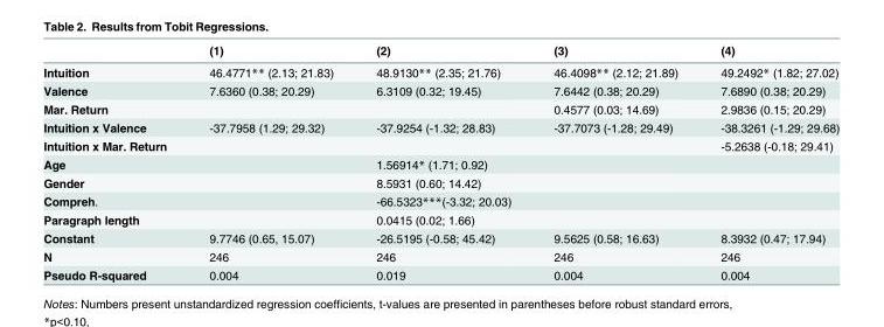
<table><thead><tr><td></td><td>(1)</td><td>(2)</td><td>(3)</td><td>(4)</td></tr></thead><tbody><tr><td>Intuition</td><td>46.4771** (2.13; 21.83)</td><td>48.9130** (2.35; 21.76)</td><td>46.4098** (2.12; 21.89)</td><td>49.2492* (1.82; 27.02)</td></tr><tr><td>Valence</td><td>7.6360 (0.38; 20.29)</td><td>6.3109 (0.32; 19.45)</td><td>7.6442 (0.38; 20.29)</td><td>7.6890 (0.38; 20.29)</td></tr><tr><td>Mar. Return</td><td></td><td></td><td>0.4577 (0.03; 14.69)</td><td>2.9836 (0.15; 20.29)</td></tr><tr><td>Intuition x Valence</td><td>-37.7958 (1.29; 29.32)</td><td>-37.9254 (-1.32; 28.83)</td><td>-37.7073 (-1.28; 29.49)</td><td>-38.3261 (-1.29; 29.68)</td></tr><tr><td>Intuition x Mar. Return</td><td></td><td></td><td></td><td>-5.2638 (-0.18; 29.41)</td></tr><tr><td>Age</td><td></td><td>1.56914* (1.71; 0.92)</td><td></td><td></td></tr><tr><td>Gender</td><td></td><td>8.5931 (0.60; 14.42)</td><td></td><td></td></tr><tr><td>Compreh.</td><td></td><td>-66.5323***(-3.32; 20.03)</td><td></td><td></td></tr><tr><td>Paragraph length</td><td></td><td>0.0415 (0.02; 1.66)</td><td></td><td></td></tr><tr><td>Constant</td><td>9.7746 (0.65, 15.07)</td><td>-26.5195 (-0.58; 45.42)</td><td>9.5625 (0.58; 16.63)</td><td>8.3932 (0.47; 17.94)</td></tr><tr><td>N</td><td>246</td><td>246</td><td>246</td><td>246</td></tr><tr><td>Pseudo R-squared</td><td>0.004</td><td>0.019</td><td>0.004</td><td>0.004</td></tr></tbody></table>